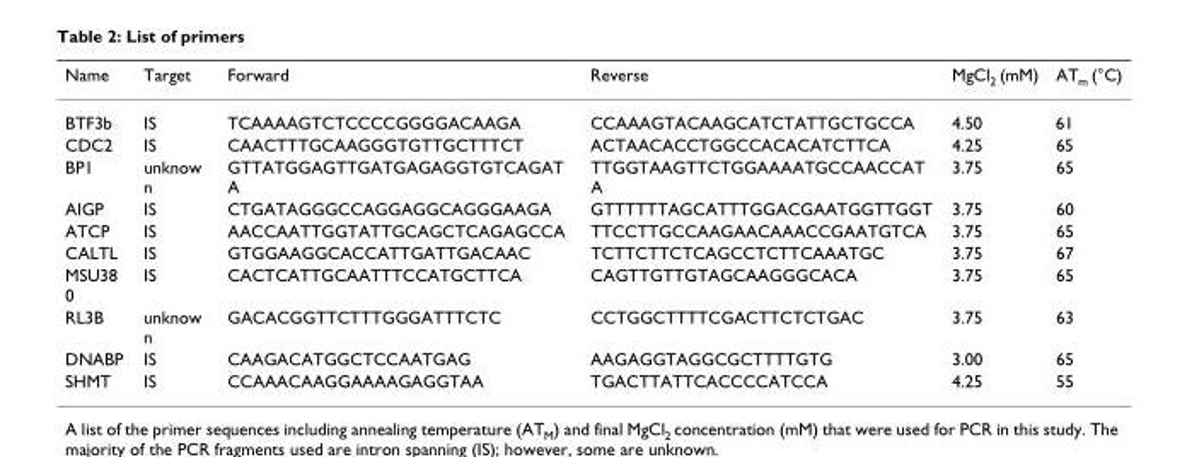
<table><thead><tr><td>Name</td><td>Target</td><td>Forward</td><td>Reverse</td><td>MgCl<sub>2</sub> (mM)</td><td>AT<sub>m</sub> (°C)</td></tr></thead><tbody><tr><td>BTF3b</td><td>IS</td><td>TCAAAAGTCTCCCCGGGGACAAGA</td><td>CCAAAGTACAAGCATCTATTGCTGCCA</td><td>4.50</td><td>61</td></tr><tr><td>CDC2</td><td>IS</td><td>CAACTTTGCAAGGGTGTTGCTTTCT</td><td>ACTAACACCTGGCCACACATCTTCA</td><td>4.25</td><td>65</td></tr><tr><td>BP1</td><td>unknow n</td><td>GTTATGGAGTTGATGAGAGGTGTCAGAT A</td><td>TTGGTAAGTTCTGGAAAATGCCAACCAT A</td><td>3.75</td><td>65</td></tr><tr><td>AIGP</td><td>IS</td><td>CTGATAGGGCCAGGAGGCAGGGAAGA</td><td>GTTTTTTAGCATTTGGACGAATGGTTGGT</td><td>3.75</td><td>60</td></tr><tr><td>ATCP</td><td>IS</td><td>AACCAATTGGTATTGCAGCTCAGAGCCA</td><td>TTCCTTGCCAAGAACAAACCGAATGTCA</td><td>3.75</td><td>65</td></tr><tr><td>CALTL</td><td>IS</td><td>GTGGAAGGCACCATTGATTGACAAC</td><td>TCTTCTTCTCAGCCTCTTCAAATGC</td><td>3.75</td><td>67</td></tr><tr><td>MSU38 0</td><td>IS</td><td>CACTCATTGCAATTTCCATGCTTCA</td><td>CAGTTGTTGTAGCAAGGGCACA</td><td>3.75</td><td>65</td></tr><tr><td>RL3B</td><td>unknow n</td><td>GACACGGTTCTTTGGGATTTCTC</td><td>CCTGGCTTTTCGACTTCTCTGAC</td><td>3.75</td><td>63</td></tr><tr><td>DNABP</td><td>IS</td><td>CAAGACATGGCTCCAATGAG</td><td>AAGAGGTAGGCGCTTTTGTG</td><td>3.00</td><td>65</td></tr><tr><td>SHMT</td><td>IS</td><td>CCAAACAAGGAAAAGAGGTAA</td><td>TGACTTATTCACCCCATCCA</td><td>4.25</td><td>55</td></tr></tbody></table>